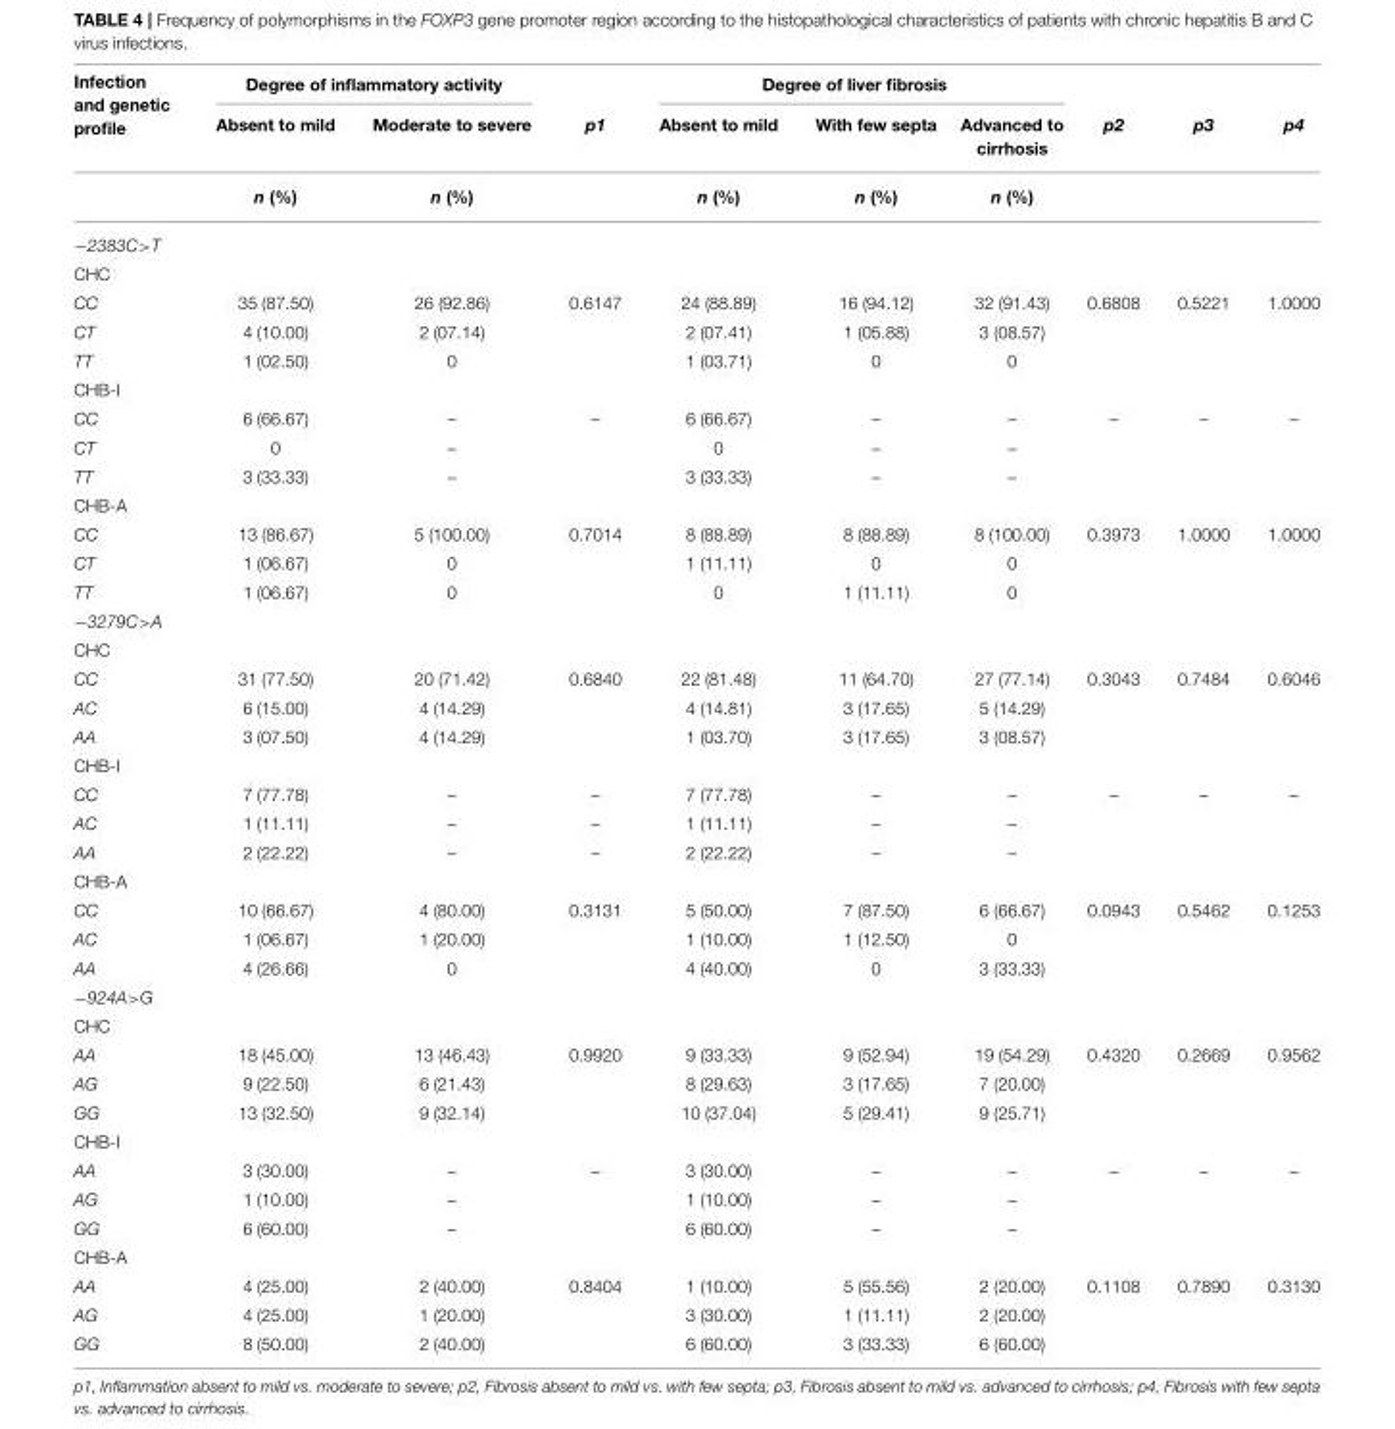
<table><thead><tr><td rowspan="2">Infection and genetic profile</td><td colspan="2">Degree of inflammatory activity</td><td rowspan="2">p1</td><td colspan="3">Degree of liver fibrosis</td><td rowspan="2">p2</td><td rowspan="2">p3</td><td rowspan="2">p4</td></tr><tr><td>Absent to mild</td><td>Moderate to severe</td><td>Absent to mild</td><td>With few septa</td><td>Advanced to cirrhosis</td></tr></thead><tbody><tr><td></td><td>n (%)</td><td>n (%)</td><td></td><td>n (%)</td><td>n (%)</td><td>n (%)</td><td></td><td></td><td></td></tr><tr><td colspan="10">−2383C&gt;T</td></tr><tr><td colspan="10">CHC</td></tr><tr><td>CC</td><td>35 (87.50)</td><td>26 (92.86)</td><td>0.6147</td><td>24 (88.89)</td><td>16 (94.12)</td><td>32 (91.43)</td><td>0.6808</td><td>0.5221</td><td>1.0000</td></tr><tr><td>CT</td><td>4 (10.00)</td><td>2 (07.14)</td><td></td><td>2 (07.41)</td><td>1 (05.88)</td><td>3 (08.57)</td><td></td><td></td><td></td></tr><tr><td>TT</td><td>1 (02.50)</td><td>0</td><td></td><td>1 (03.71)</td><td>0</td><td>0</td><td></td><td></td><td></td></tr><tr><td colspan="10">CHB-I</td></tr><tr><td>CC</td><td>6 (66.67)</td><td>–</td><td>–</td><td>6 (66.67)</td><td>–</td><td>–</td><td>–</td><td>–</td><td>–</td></tr><tr><td>CT</td><td>0</td><td>–</td><td></td><td>0</td><td>–</td><td>–</td><td></td><td></td><td></td></tr><tr><td>TT</td><td>3 (33.33)</td><td>–</td><td></td><td>3 (33.33)</td><td>–</td><td>–</td><td></td><td></td><td></td></tr><tr><td colspan="10">CHB-A</td></tr><tr><td>CC</td><td>13 (86.67)</td><td>5 (100.00)</td><td>0.7014</td><td>8 (88.89)</td><td>8 (88.89)</td><td>8 (100.00)</td><td>0.3973</td><td>1.0000</td><td>1.0000</td></tr><tr><td>CT</td><td>1 (06.67)</td><td>0</td><td></td><td>1 (11.11)</td><td>0</td><td>0</td><td></td><td></td><td></td></tr><tr><td>TT</td><td>1 (06.67)</td><td>0</td><td></td><td>0</td><td>1 (11.11)</td><td>0</td><td></td><td></td><td></td></tr><tr><td colspan="10">−3279C&gt;A</td></tr><tr><td colspan="10">CHC</td></tr><tr><td>CC</td><td>31 (77.50)</td><td>20 (71.42)</td><td>0.6840</td><td>22 (81.48)</td><td>11 (64.70)</td><td>27 (77.14)</td><td>0.3043</td><td>0.7484</td><td>0.6046</td></tr><tr><td>AC</td><td>6 (15.00)</td><td>4 (14.29)</td><td></td><td>4 (14.81)</td><td>3 (17.65)</td><td>5 (14.29)</td><td></td><td></td><td></td></tr><tr><td>AA</td><td>3 (07.50)</td><td>4 (14.29)</td><td></td><td>1 (03.70)</td><td>3 (17.65)</td><td>3 (08.57)</td><td></td><td></td><td></td></tr><tr><td colspan="10">CHB-I</td></tr><tr><td>CC</td><td>7 (77.78)</td><td>–</td><td>–</td><td>7 (77.78)</td><td>–</td><td>–</td><td>–</td><td>–</td><td>–</td></tr><tr><td>AC</td><td>1 (11.11)</td><td>–</td><td>–</td><td>1 (11.11)</td><td>–</td><td>–</td><td></td><td></td><td></td></tr><tr><td>AA</td><td>2 (22.22)</td><td>–</td><td>–</td><td>2 (22.22)</td><td>–</td><td>–</td><td></td><td></td><td></td></tr><tr><td colspan="10">CHB-A</td></tr><tr><td>CC</td><td>10 (66.67)</td><td>4 (80.00)</td><td>0.3131</td><td>5 (50.00)</td><td>7 (87.50)</td><td>6 (66.67)</td><td>0.0943</td><td>0.5462</td><td>0.1253</td></tr><tr><td>AC</td><td>1 (06.67)</td><td>1 (20.00)</td><td></td><td>1 (10.00)</td><td>1 (12.50)</td><td>0</td><td></td><td></td><td></td></tr><tr><td>AA</td><td>4 (26.66)</td><td>0</td><td></td><td>4 (40.00)</td><td>0</td><td>3 (33.33)</td><td></td><td></td><td></td></tr><tr><td colspan="10">−924A&gt;G</td></tr><tr><td colspan="10">CHC</td></tr><tr><td>AA</td><td>18 (45.00)</td><td>13 (46.43)</td><td>0.9920</td><td>9 (33.33)</td><td>9 (52.94)</td><td>19 (54.29)</td><td>0.4320</td><td>0.2669</td><td>0.9562</td></tr><tr><td>AG</td><td>9 (22.50)</td><td>6 (21.43)</td><td></td><td>8 (29.63)</td><td>3 (17.65)</td><td>7 (20.00)</td><td></td><td></td><td></td></tr><tr><td>GG</td><td>13 (32.50)</td><td>9 (32.14)</td><td></td><td>10 (37.04)</td><td>5 (29.41)</td><td>9 (25.71)</td><td></td><td></td><td></td></tr><tr><td colspan="10">CHB-I</td></tr><tr><td>AA</td><td>3 (30.00)</td><td>–</td><td>–</td><td>3 (30.00)</td><td>–</td><td>–</td><td>–</td><td>–</td><td>–</td></tr><tr><td>AG</td><td>1 (10.00)</td><td>–</td><td></td><td>1 (10.00)</td><td>–</td><td>–</td><td></td><td></td><td></td></tr><tr><td>GG</td><td>6 (60.00)</td><td>–</td><td></td><td>6 (60.00)</td><td>–</td><td>–</td><td></td><td></td><td></td></tr><tr><td colspan="10">CHB-A</td></tr><tr><td>AA</td><td>4 (25.00)</td><td>2 (40.00)</td><td>0.8404</td><td>1 (10.00)</td><td>5 (55.56)</td><td>2 (20.00)</td><td>0.1108</td><td>0.7890</td><td>0.3130</td></tr><tr><td>AG</td><td>4 (25.00)</td><td>1 (20.00)</td><td></td><td>3 (30.00)</td><td>1 (11.11)</td><td>2 (20.00)</td><td></td><td></td><td></td></tr><tr><td>GG</td><td>8 (50.00)</td><td>2 (40.00)</td><td></td><td>6 (60.00)</td><td>3 (33.33)</td><td>6 (60.00)</td><td></td><td></td><td></td></tr></tbody></table>